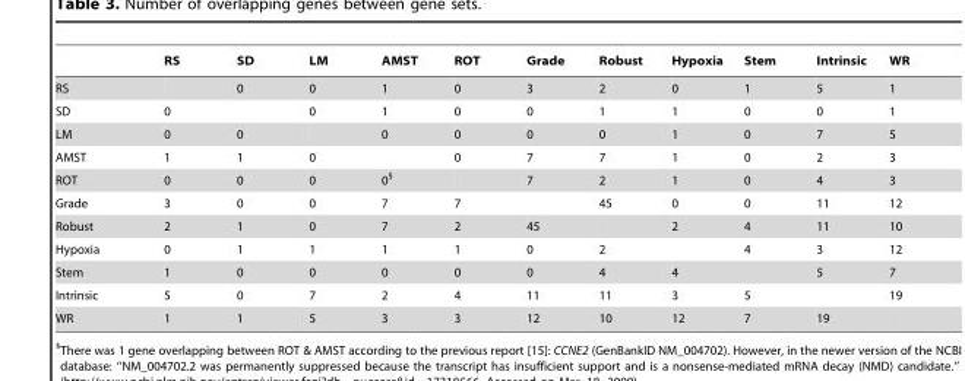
<table><thead><tr><td></td><td>RS</td><td>SD</td><td>LM</td><td>AMST</td><td>ROT</td><td>Grade</td><td>Robust</td><td>Hypoxia</td><td>Stem</td><td>Intrinsic</td><td>WR</td></tr></thead><tbody><tr><td>RS</td><td></td><td>0</td><td>0</td><td>1</td><td>0</td><td>3</td><td>2</td><td>0</td><td>1</td><td>5</td><td>1</td></tr><tr><td>SD</td><td>0</td><td></td><td>0</td><td>1</td><td>0</td><td>0</td><td>1</td><td>1</td><td>0</td><td>0</td><td>1</td></tr><tr><td>LM</td><td>0</td><td>0</td><td></td><td>0</td><td>0</td><td>0</td><td>0</td><td>1</td><td>0</td><td>7</td><td>5</td></tr><tr><td>AMST</td><td>1</td><td>1</td><td>0</td><td></td><td>0</td><td>7</td><td>7</td><td>1</td><td>0</td><td>2</td><td>3</td></tr><tr><td>ROT</td><td>0</td><td>0</td><td>0</td><td>0§</td><td></td><td>7</td><td>2</td><td>1</td><td>0</td><td>4</td><td>3</td></tr><tr><td>Grade</td><td>3</td><td>0</td><td>0</td><td>7</td><td>7</td><td></td><td>45</td><td>0</td><td>0</td><td>11</td><td>12</td></tr><tr><td>Robust</td><td>2</td><td>1</td><td>0</td><td>7</td><td>2</td><td>45</td><td></td><td>2</td><td>4</td><td>11</td><td>10</td></tr><tr><td>Hypoxia</td><td>0</td><td>1</td><td>1</td><td>1</td><td>1</td><td>0</td><td>2</td><td></td><td>4</td><td>3</td><td>12</td></tr><tr><td>Stem</td><td>1</td><td>0</td><td>0</td><td>0</td><td>0</td><td>0</td><td>4</td><td>4</td><td></td><td>5</td><td>7</td></tr><tr><td>Intrinsic</td><td>5</td><td>0</td><td>7</td><td>2</td><td>4</td><td>11</td><td>11</td><td>3</td><td>5</td><td></td><td>19</td></tr><tr><td>WR</td><td>1</td><td>1</td><td>5</td><td>3</td><td>3</td><td>12</td><td>10</td><td>12</td><td>7</td><td>19</td><td></td></tr></tbody></table>